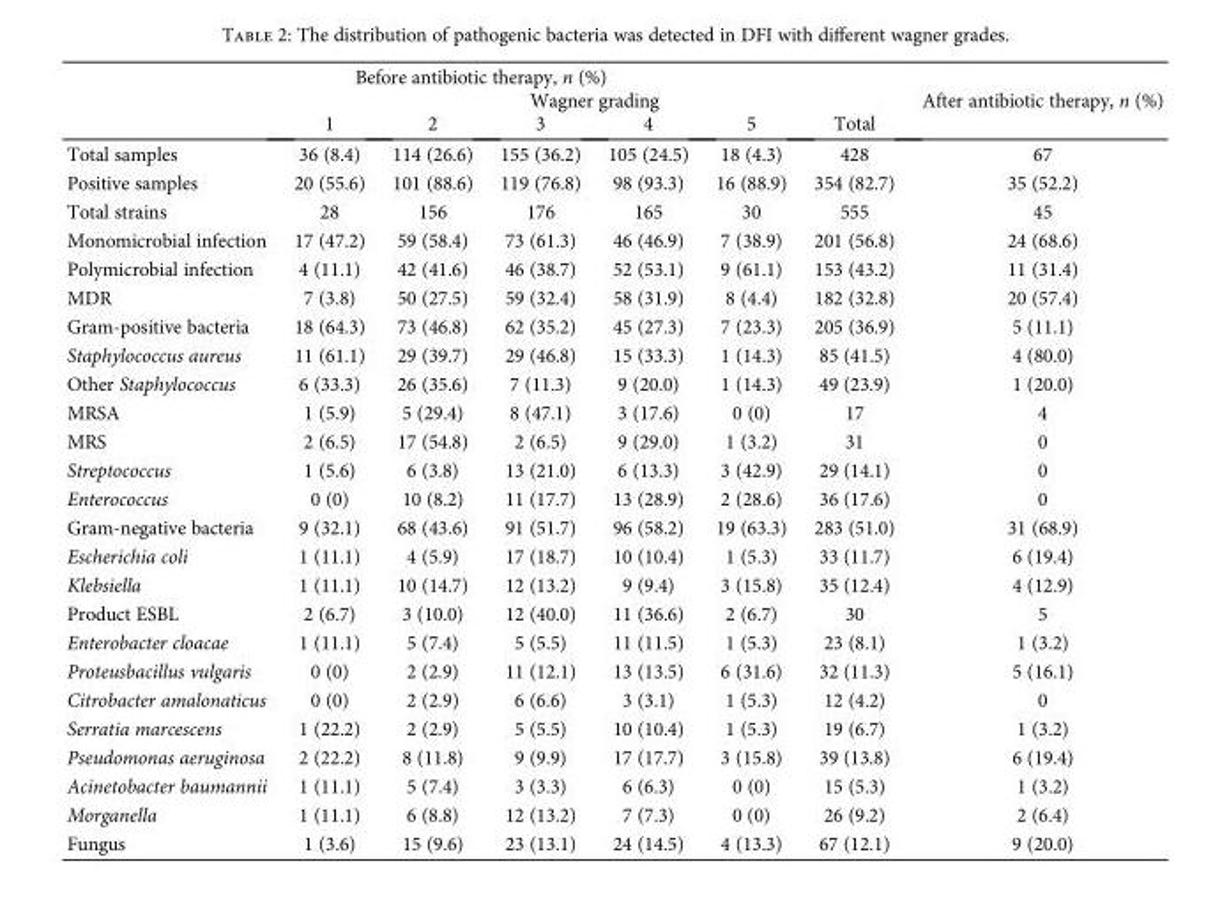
<table><thead><tr><td colspan="7">Before antibiotic therapy, n (%)</td><td rowspan="3">After antibiotic therapy, n (%)</td></tr><tr><td rowspan="2"></td><td colspan="6">Wagner grading</td></tr><tr><td>1</td><td>2</td><td>3</td><td>4</td><td>5</td><td>Total</td></tr></thead><tbody><tr><td>Total samples</td><td>36 (8.4)</td><td>114 (26.6)</td><td>155 (36.2)</td><td>105 (24.5)</td><td>18 (4.3)</td><td>428</td><td>67</td></tr><tr><td>Positive samples</td><td>20 (55.6)</td><td>101 (88.6)</td><td>119 (76.8)</td><td>98 (93.3)</td><td>16 (88.9)</td><td>354 (82.7)</td><td>35 (52.2)</td></tr><tr><td>Total strains</td><td>28</td><td>156</td><td>176</td><td>165</td><td>30</td><td>555</td><td>45</td></tr><tr><td>Monomicrobial infection</td><td>17 (47.2)</td><td>59 (58.4)</td><td>73 (61.3)</td><td>46 (46.9)</td><td>7 (38.9)</td><td>201 (56.8)</td><td>24 (68.6)</td></tr><tr><td>Polymicrobial infection</td><td>4 (11.1)</td><td>42 (41.6)</td><td>46 (38.7)</td><td>52 (53.1)</td><td>9 (61.1)</td><td>153 (43.2)</td><td>11 (31.4)</td></tr><tr><td>MDR</td><td>7 (3.8)</td><td>50 (27.5)</td><td>59 (32.4)</td><td>58 (31.9)</td><td>8 (4.4)</td><td>182 (32.8)</td><td>20 (57.4)</td></tr><tr><td>Gram-positive bacteria</td><td>18 (64.3)</td><td>73 (46.8)</td><td>62 (35.2)</td><td>45 (27.3)</td><td>7 (23.3)</td><td>205 (36.9)</td><td>5 (11.1)</td></tr><tr><td>Staphylococcus aureus</td><td>11 (61.1)</td><td>29 (39.7)</td><td>29 (46.8)</td><td>15 (33.3)</td><td>1 (14.3)</td><td>85 (41.5)</td><td>4 (80.0)</td></tr><tr><td>Other Staphylococcus</td><td>6 (33.3)</td><td>26 (35.6)</td><td>7 (11.3)</td><td>9 (20.0)</td><td>1 (14.3)</td><td>49 (23.9)</td><td>1 (20.0)</td></tr><tr><td>MRSA</td><td>1 (5.9)</td><td>5 (29.4)</td><td>8 (47.1)</td><td>3 (17.6)</td><td>0 (0)</td><td>17</td><td>4</td></tr><tr><td>MRS</td><td>2 (6.5)</td><td>17 (54.8)</td><td>2 (6.5)</td><td>9 (29.0)</td><td>1 (3.2)</td><td>31</td><td>0</td></tr><tr><td>Streptococcus</td><td>1 (5.6)</td><td>6 (3.8)</td><td>13 (21.0)</td><td>6 (13.3)</td><td>3 (42.9)</td><td>29 (14.1)</td><td>0</td></tr><tr><td>Enterococcus</td><td>0 (0)</td><td>10 (8.2)</td><td>11 (17.7)</td><td>13 (28.9)</td><td>2 (28.6)</td><td>36 (17.6)</td><td>0</td></tr><tr><td>Gram-negative bacteria</td><td>9 (32.1)</td><td>68 (43.6)</td><td>91 (51.7)</td><td>96 (58.2)</td><td>19 (63.3)</td><td>283 (51.0)</td><td>31 (68.9)</td></tr><tr><td>Escherichia coli</td><td>1 (11.1)</td><td>4 (5.9)</td><td>17 (18.7)</td><td>10 (10.4)</td><td>1 (5.3)</td><td>33 (11.7)</td><td>6 (19.4)</td></tr><tr><td>Klebsiella</td><td>1 (11.1)</td><td>10 (14.7)</td><td>12 (13.2)</td><td>9 (9.4)</td><td>3 (15.8)</td><td>35 (12.4)</td><td>4 (12.9)</td></tr><tr><td>Product ESBL</td><td>2 (6.7)</td><td>3 (10.0)</td><td>12 (40.0)</td><td>11 (36.6)</td><td>2 (6.7)</td><td>30</td><td>5</td></tr><tr><td>Enterobacter cloacae</td><td>1 (11.1)</td><td>5 (7.4)</td><td>5 (5.5)</td><td>11 (11.5)</td><td>1 (5.3)</td><td>23 (8.1)</td><td>1 (3.2)</td></tr><tr><td>Proteusbacillus vulgaris</td><td>0 (0)</td><td>2 (2.9)</td><td>11 (12.1)</td><td>13 (13.5)</td><td>6 (31.6)</td><td>32 (11.3)</td><td>5 (16.1)</td></tr><tr><td>Citrobacter amalonaticus</td><td>0 (0)</td><td>2 (2.9)</td><td>6 (6.6)</td><td>3 (3.1)</td><td>1 (5.3)</td><td>12 (4.2)</td><td>0</td></tr><tr><td>Serratia marcescens</td><td>1 (22.2)</td><td>2 (2.9)</td><td>5 (5.5)</td><td>10 (10.4)</td><td>1 (5.3)</td><td>19 (6.7)</td><td>1 (3.2)</td></tr><tr><td>Pseudomonas aeruginosa</td><td>2 (22.2)</td><td>8 (11.8)</td><td>9 (9.9)</td><td>17 (17.7)</td><td>3 (15.8)</td><td>39 (13.8)</td><td>6 (19.4)</td></tr><tr><td>Acinetobacter baumannii</td><td>1 (11.1)</td><td>5 (7.4)</td><td>3 (3.3)</td><td>6 (6.3)</td><td>0 (0)</td><td>15 (5.3)</td><td>1 (3.2)</td></tr><tr><td>Morganella</td><td>1 (11.1)</td><td>6 (8.8)</td><td>12 (13.2)</td><td>7 (7.3)</td><td>0 (0)</td><td>26 (9.2)</td><td>2 (6.4)</td></tr><tr><td>Fungus</td><td>1 (3.6)</td><td>15 (9.6)</td><td>23 (13.1)</td><td>24 (14.5)</td><td>4 (13.3)</td><td>67 (12.1)</td><td>9 (20.0)</td></tr></tbody></table>